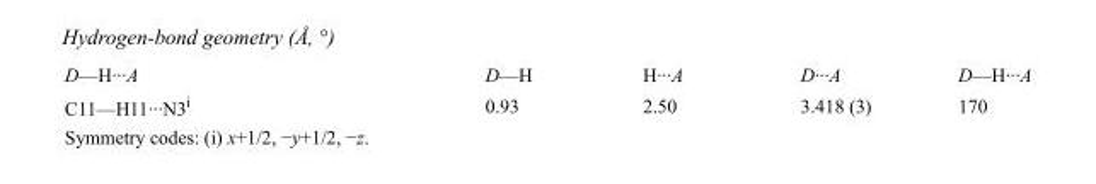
<table><tbody><tr><td>D—H···A</td><td>D—H</td><td>H···A</td><td>D···A</td><td>D—H···A</td></tr><tr><td>C11—H11···N3<sup>i</sup></td><td>0.93</td><td>2.50</td><td>3.418 (3)</td><td>170</td></tr></tbody></table>